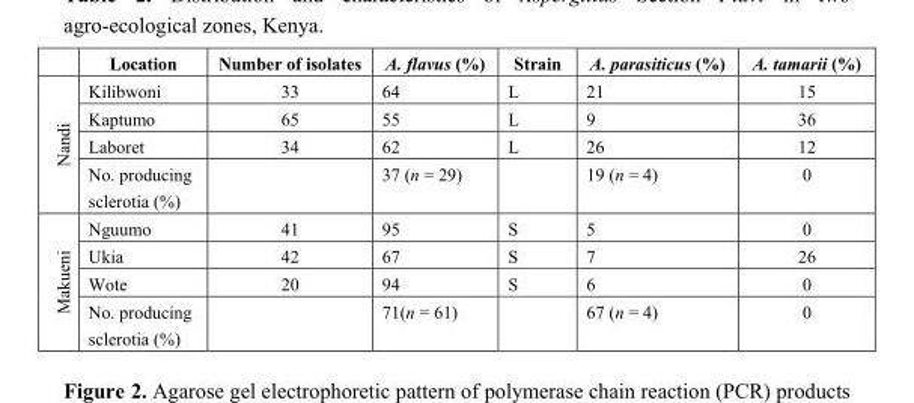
<table><thead><tr><td></td><td>Location</td><td>Number of isolates</td><td>A. flavus (%)</td><td>Strain</td><td>A. parasiticus (%)</td><td>A. tamarii (%)</td></tr></thead><tbody><tr><td rowspan="4">Nandi</td><td>Kilibwoni</td><td>33</td><td>64</td><td>L</td><td>21</td><td>15</td></tr><tr><td>Kaptumo</td><td>65</td><td>55</td><td>L</td><td>9</td><td>36</td></tr><tr><td>Laboret</td><td>34</td><td>62</td><td>L</td><td>26</td><td>12</td></tr><tr><td>No. producing sclerotia (%)</td><td></td><td>37 (n = 29)</td><td></td><td>19 (n = 4)</td><td>0</td></tr><tr><td rowspan="4">Makueni</td><td>Nguumo</td><td>41</td><td>95</td><td>S</td><td>5</td><td>0</td></tr><tr><td>Ukia</td><td>42</td><td>67</td><td>S</td><td>7</td><td>26</td></tr><tr><td>Wote</td><td>20</td><td>94</td><td>S</td><td>6</td><td>0</td></tr><tr><td>No. producing sclerotia (%)</td><td></td><td>71(n = 61)</td><td></td><td>67 (n = 4)</td><td>0</td></tr></tbody></table>